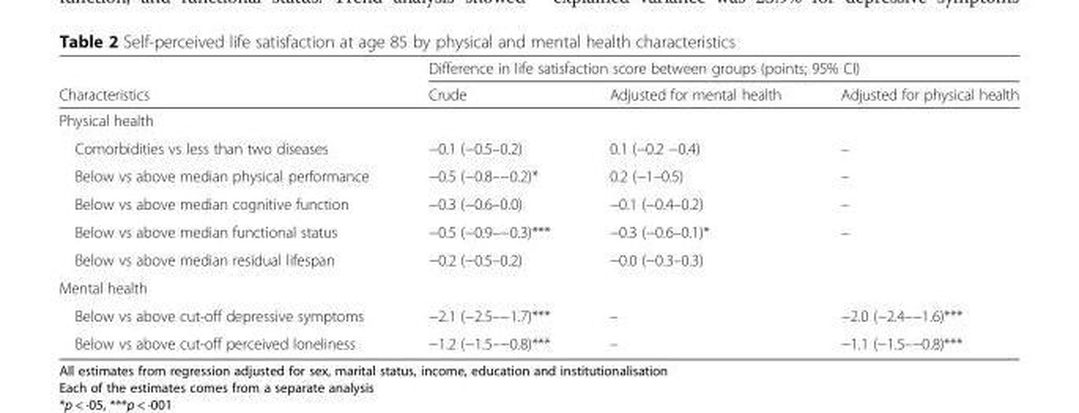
<table><thead><tr><td rowspan="2">Characteristics</td><td colspan="3">Difference in life satisfaction score between groups (points; 95% CI)</td></tr><tr><td>Crude</td><td>Adjusted for mental health</td><td>Adjusted for physical health</td></tr></thead><tbody><tr><td colspan="4">Physical health</td></tr><tr><td>Comorbidities vs less than two diseases</td><td>−0.1 (−0.5–0.2)</td><td>0.1 (−0.2 −0.4)</td><td>–</td></tr><tr><td>Below vs above median physical performance</td><td>−0.5 (−0.8–−0.2)*</td><td>0.2 (−1–0.5)</td><td>–</td></tr><tr><td>Below vs above median cognitive function</td><td>−0.3 (−0.6–0.0)</td><td>−0.1 (−0.4–0.2)</td><td>–</td></tr><tr><td>Below vs above median functional status</td><td>−0.5 (−0.9–−0.3)***</td><td>−0.3 (−0.6–0.1)*</td><td>–</td></tr><tr><td>Below vs above median residual lifespan</td><td>−0.2 (−0.5–0.2)</td><td>−0.0 (−0.3–0.3)</td><td></td></tr><tr><td colspan="4">Mental health</td></tr><tr><td>Below vs above cut-off depressive symptoms</td><td>−2.1 (−2.5–−1.7)***</td><td>–</td><td>−2.0 (−2.4–−1.6)***</td></tr><tr><td>Below vs above cut-off perceived loneliness</td><td>−1.2 (−1.5–−0.8)***</td><td>–</td><td>−1.1 (−1.5–−0.8)***</td></tr></tbody></table>